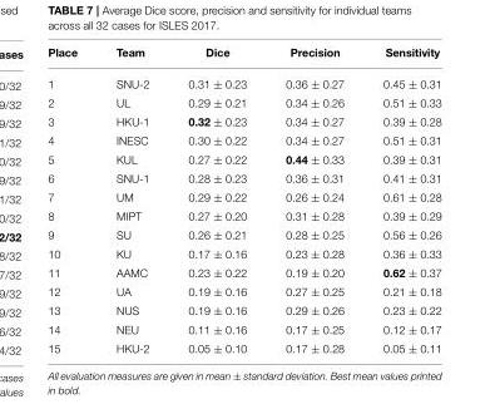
<table><thead><tr><td>Place</td><td>Team</td><td>Dice</td><td>Precision</td><td>Sensitivity</td></tr></thead><tbody><tr><td>1</td><td>SNU-2</td><td>0.31 ± 0.23</td><td>0.36 ± 0.27</td><td>0.45 ± 0.31</td></tr><tr><td>2</td><td>UL</td><td>0.29 ± 0.21</td><td>0.34 ± 0.26</td><td>0.51 ± 0.33</td></tr><tr><td>3</td><td>HKU-1</td><td>0.32 ± 0.23</td><td>0.34 ± 0.27</td><td>0.39 ± 0.28</td></tr><tr><td>4</td><td>INESC</td><td>0.30 ± 0.22</td><td>0.34 ± 0.27</td><td>0.51 ± 0.31</td></tr><tr><td>5</td><td>KUL</td><td>0.27 ± 0.22</td><td>0.44 ± 0.33</td><td>0.39 ± 0.31</td></tr><tr><td>6</td><td>SNU-1</td><td>0.28 ± 0.23</td><td>0.36 ± 0.31</td><td>0.41 ± 0.31</td></tr><tr><td>7</td><td>UM</td><td>0.29 ± 0.22</td><td>0.26 ± 0.24</td><td>0.61 ± 0.28</td></tr><tr><td>8</td><td>MIPT</td><td>0.27 ± 0.20</td><td>0.31 ± 0.28</td><td>0.39 ± 0.29</td></tr><tr><td>9</td><td>SU</td><td>0.26 ± 0.21</td><td>0.28 ± 0.25</td><td>0.56 ± 0.26</td></tr><tr><td>10</td><td>KU</td><td>0.17 ± 0.16</td><td>0.23 ± 0.28</td><td>0.36 ± 0.33</td></tr><tr><td>11</td><td>AAMC</td><td>0.23 ± 0.22</td><td>0.19 ± 0.20</td><td>0.62 ± 0.37</td></tr><tr><td>12</td><td>UA</td><td>0.19 ± 0.16</td><td>0.27 ± 0.25</td><td>0.21 ± 0.18</td></tr><tr><td>13</td><td>NUS</td><td>0.19 ± 0.16</td><td>0.29 ± 0.26</td><td>0.23 ± 0.22</td></tr><tr><td>14</td><td>NEU</td><td>0.11 ± 0.16</td><td>0.17 ± 0.25</td><td>0.12 ± 0.17</td></tr><tr><td>15</td><td>HKU-2</td><td>0.05 ± 0.10</td><td>0.17 ± 0.28</td><td>0.05 ± 0.11</td></tr></tbody></table>